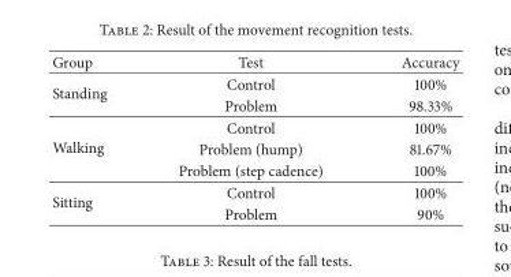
<table><thead><tr><td>Group</td><td>Test</td><td>Accuracy</td></tr></thead><tbody><tr><td rowspan="2">Standing</td><td>Control</td><td>100%</td></tr><tr><td>Problem</td><td>98.33%</td></tr><tr><td rowspan="3">Walking</td><td>Control</td><td>100%</td></tr><tr><td>Problem (hump)</td><td>81.67%</td></tr><tr><td>Problem (step cadence)</td><td>100%</td></tr><tr><td rowspan="2">Sitting</td><td>Control</td><td>100%</td></tr><tr><td>Problem</td><td>90%</td></tr></tbody></table>